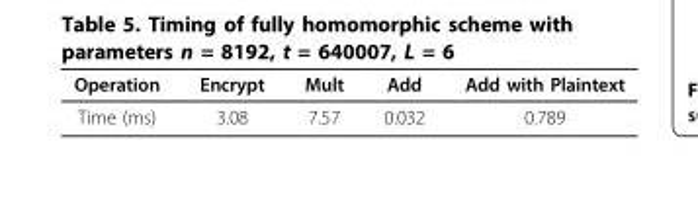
<table><thead><tr><td>Operation</td><td>Encrypt</td><td>Mult</td><td>Add</td><td>Add with Plaintext</td></tr></thead><tbody><tr><td>Time (ms)</td><td>3.08</td><td>7.57</td><td>0.032</td><td>0.789</td></tr></tbody></table>